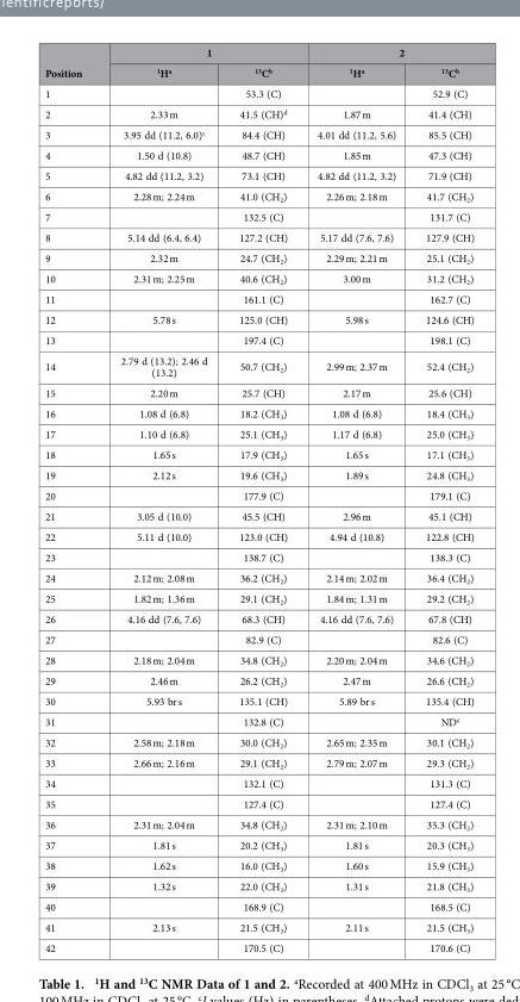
<table><thead><tr><td rowspan="2">Position</td><td colspan="2">1</td><td colspan="2">2</td></tr><tr><td><sup>1</sup>H<sup>a</sup></td><td><sup>13</sup>C<sup>b</sup></td><td><sup>1</sup>H<sup>a</sup></td><td><sup>13</sup>C<sup>b</sup></td></tr></thead><tbody><tr><td>1</td><td></td><td>53.3 (C)</td><td></td><td>52.9 (C)</td></tr><tr><td>2</td><td>2.33 m</td><td>41.5 (CH)<sup>d</sup></td><td>1.87 m</td><td>41.4 (CH)</td></tr><tr><td>3</td><td>3.95 dd (11.2, 6.0)<sup>c</sup></td><td>84.4 (CH)</td><td>4.01 dd (11.2, 5.6)</td><td>85.5 (CH)</td></tr><tr><td>4</td><td>1.50 d (10.8)</td><td>48.7 (CH)</td><td>1.85 m</td><td>47.3 (CH)</td></tr><tr><td>5</td><td>4.82 dd (11.2, 3.2)</td><td>73.1 (CH)</td><td>4.82 dd (11.2, 3.2)</td><td>71.9 (CH)</td></tr><tr><td>6</td><td>2.28 m; 2.24 m</td><td>41.0 (CH<sub>2</sub>)</td><td>2.26 m; 2.18 m</td><td>41.7 (CH<sub>2</sub>)</td></tr><tr><td>7</td><td></td><td>132.5 (C)</td><td></td><td>131.7 (C)</td></tr><tr><td>8</td><td>5.14 dd (6.4, 6.4)</td><td>127.2 (CH)</td><td>5.17 dd (7.6, 7.6)</td><td>127.9 (CH)</td></tr><tr><td>9</td><td>2.32 m</td><td>24.7 (CH<sub>2</sub>)</td><td>2.29 m; 2.21 m</td><td>25.1 (CH<sub>2</sub>)</td></tr><tr><td>10</td><td>2.31 m; 2.25 m</td><td>40.6 (CH<sub>2</sub>)</td><td>3.00 m</td><td>31.2 (CH<sub>2</sub>)</td></tr><tr><td>11</td><td></td><td>161.1 (C)</td><td></td><td>162.7 (C)</td></tr><tr><td>12</td><td>5.78 s</td><td>125.0 (CH)</td><td>5.98 s</td><td>124.6 (CH)</td></tr><tr><td>13</td><td></td><td>197.4 (C)</td><td></td><td>198.1 (C)</td></tr><tr><td>14</td><td>2.79 d (13.2); 2.46 d (13.2)</td><td>50.7 (CH<sub>2</sub>)</td><td>2.99 m; 2.37 m</td><td>52.4 (CH<sub>2</sub>)</td></tr><tr><td>15</td><td>2.20 m</td><td>25.7 (CH)</td><td>2.17 m</td><td>25.6 (CH)</td></tr><tr><td>16</td><td>1.08 d (6.8)</td><td>18.2 (CH<sub>3</sub>)</td><td>1.08 d (6.8)</td><td>18.4 (CH<sub>3</sub>)</td></tr><tr><td>17</td><td>1.10 d (6.8)</td><td>25.1 (CH<sub>3</sub>)</td><td>1.17 d (6.8)</td><td>25.0 (CH<sub>3</sub>)</td></tr><tr><td>18</td><td>1.65 s</td><td>17.9 (CH<sub>3</sub>)</td><td>1.65 s</td><td>17.1 (CH<sub>3</sub>)</td></tr><tr><td>19</td><td>2.12 s</td><td>19.6 (CH<sub>3</sub>)</td><td>1.89 s</td><td>24.8 (CH<sub>3</sub>)</td></tr><tr><td>20</td><td></td><td>177.9 (C)</td><td></td><td>179.1 (C)</td></tr><tr><td>21</td><td>3.05 d (10.0)</td><td>45.5 (CH)</td><td>2.96 m</td><td>45.1 (CH)</td></tr><tr><td>22</td><td>5.11 d (10.0)</td><td>123.0 (CH)</td><td>4.94 d (10.8)</td><td>122.8 (CH)</td></tr><tr><td>23</td><td></td><td>138.7 (C)</td><td></td><td>138.3 (C)</td></tr><tr><td>24</td><td>2.12 m; 2.08 m</td><td>36.2 (CH<sub>2</sub>)</td><td>2.14 m; 2.02 m</td><td>36.4 (CH<sub>2</sub>)</td></tr><tr><td>25</td><td>1.82 m; 1.36 m</td><td>29.1 (CH<sub>2</sub>)</td><td>1.84 m; 1.31 m</td><td>29.2 (CH<sub>2</sub>)</td></tr><tr><td>26</td><td>4.16 dd (7.6, 7.6)</td><td>68.3 (CH)</td><td>4.16 dd (7.6, 7.6)</td><td>67.8 (CH)</td></tr><tr><td>27</td><td></td><td>82.9 (C)</td><td></td><td>82.6 (C)</td></tr><tr><td>28</td><td>2.18 m; 2.04 m</td><td>34.8 (CH<sub>2</sub>)</td><td>2.20 m; 2.04 m</td><td>34.6 (CH<sub>2</sub>)</td></tr><tr><td>29</td><td>2.46 m</td><td>26.2 (CH<sub>2</sub>)</td><td>2.47 m</td><td>26.6 (CH<sub>2</sub>)</td></tr><tr><td>30</td><td>5.93 br s</td><td>135.1 (CH)</td><td>5.89 br s</td><td>135.4 (CH)</td></tr><tr><td>31</td><td></td><td>132.8 (C)</td><td></td><td>ND<sup>e</sup></td></tr><tr><td>32</td><td>2.58 m; 2.18 m</td><td>30.0 (CH<sub>2</sub>)</td><td>2.65 m; 2.35 m</td><td>30.1 (CH<sub>2</sub>)</td></tr><tr><td>33</td><td>2.66 m; 2.16 m</td><td>29.1 (CH<sub>2</sub>)</td><td>2.79 m; 2.07 m</td><td>29.3 (CH<sub>2</sub>)</td></tr><tr><td>34</td><td></td><td>132.1 (C)</td><td></td><td>131.3 (C)</td></tr><tr><td>35</td><td></td><td>127.4 (C)</td><td></td><td>127.4 (C)</td></tr><tr><td>36</td><td>2.31 m; 2.04 m</td><td>34.8 (CH<sub>2</sub>)</td><td>2.31 m; 2.10 m</td><td>35.3 (CH<sub>2</sub>)</td></tr><tr><td>37</td><td>1.81 s</td><td>20.2 (CH<sub>3</sub>)</td><td>1.81 s</td><td>20.3 (CH<sub>3</sub>)</td></tr><tr><td>38</td><td>1.62 s</td><td>16.0 (CH<sub>3</sub>)</td><td>1.60 s</td><td>15.9 (CH<sub>3</sub>)</td></tr><tr><td>39</td><td>1.32 s</td><td>22.0 (CH<sub>3</sub>)</td><td>1.31 s</td><td>21.8 (CH<sub>3</sub>)</td></tr><tr><td>40</td><td></td><td>168.9 (C)</td><td></td><td>168.5 (C)</td></tr><tr><td>41</td><td>2.13 s</td><td>21.5 (CH<sub>3</sub>)</td><td>2.11 s</td><td>21.5 (CH<sub>3</sub>)</td></tr><tr><td>42</td><td></td><td>170.5 (C)</td><td></td><td>170.6 (C)</td></tr></tbody></table>